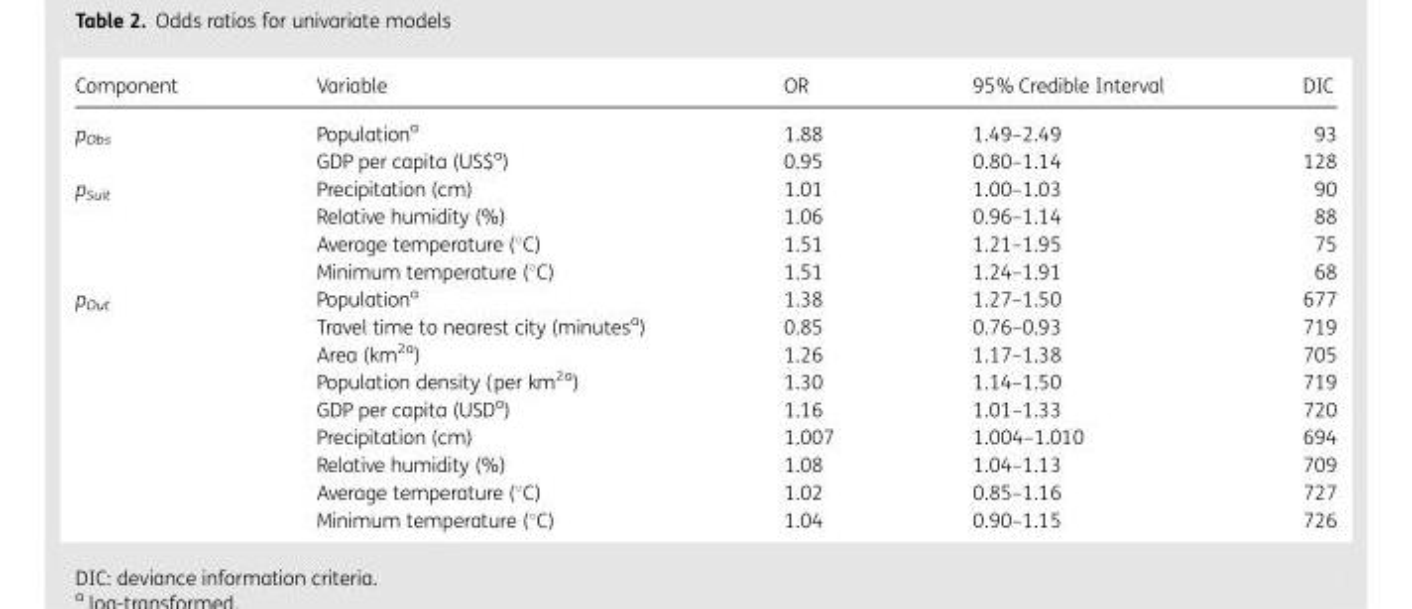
<table><thead><tr><td>Component</td><td>Variable</td><td>OR</td><td>95% Credible Interval</td><td>DIC</td></tr></thead><tbody><tr><td rowspan="2">p<sub>Obs</sub></td><td>Population<sup>a</sup></td><td>1.88</td><td>1.49–2.49</td><td>93</td></tr><tr><td>GDP per capita (US$<sup>a</sup>)</td><td>0.95</td><td>0.80–1.14</td><td>128</td></tr><tr><td rowspan="4">p<sub>Suit</sub></td><td>Precipitation (cm)</td><td>1.01</td><td>1.00–1.03</td><td>90</td></tr><tr><td>Relative humidity (%)</td><td>1.06</td><td>0.96–1.14</td><td>88</td></tr><tr><td>Average temperature (°C)</td><td>1.51</td><td>1.21–1.95</td><td>75</td></tr><tr><td>Minimum temperature (°C)</td><td>1.51</td><td>1.24–1.91</td><td>68</td></tr><tr><td rowspan="9">p<sub>Out</sub></td><td>Population<sup>a</sup></td><td>1.38</td><td>1.27–1.50</td><td>677</td></tr><tr><td>Travel time to nearest city (minutes<sup>a</sup>)</td><td>0.85</td><td>0.76–0.93</td><td>719</td></tr><tr><td>Area (km<sup>2a</sup>)</td><td>1.26</td><td>1.17–1.38</td><td>705</td></tr><tr><td>Population density (per km<sup>2a</sup>)</td><td>1.30</td><td>1.14–1.50</td><td>719</td></tr><tr><td>GDP per capita (USD<sup>a</sup>)</td><td>1.16</td><td>1.01–1.33</td><td>720</td></tr><tr><td>Precipitation (cm)</td><td>1.007</td><td>1.004–1.010</td><td>694</td></tr><tr><td>Relative humidity (%)</td><td>1.08</td><td>1.04–1.13</td><td>709</td></tr><tr><td>Average temperature (°C)</td><td>1.02</td><td>0.85–1.16</td><td>727</td></tr><tr><td>Minimum temperature (°C)</td><td>1.04</td><td>0.90–1.15</td><td>726</td></tr></tbody></table>